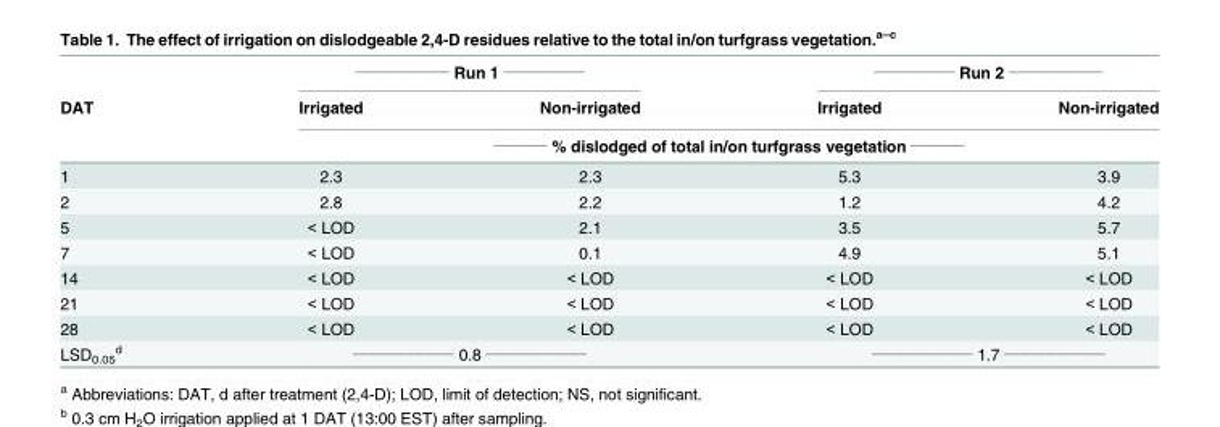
<table><thead><tr><td rowspan="3">DAT</td><td colspan="2"><sup>______________</sup> Run 1 <sup>____________</sup></td><td colspan="2"><sup>____________</sup> Run 2 <sup>______________</sup></td></tr><tr><td>Irrigated</td><td>Non-irrigated</td><td>Irrigated</td><td>Non-irrigated</td></tr><tr><td colspan="4"><sup>________</sup> % dislodged of total in/on turfgrass vegetation <sup>________</sup></td></tr></thead><tbody><tr><td>1</td><td>2.3</td><td>2.3</td><td>5.3</td><td>3.9</td></tr><tr><td>2</td><td>2.8</td><td>2.2</td><td>1.2</td><td>4.2</td></tr><tr><td>5</td><td>&lt; LOD</td><td>2.1</td><td>3.5</td><td>5.7</td></tr><tr><td>7</td><td>&lt; LOD</td><td>0.1</td><td>4.9</td><td>5.1</td></tr><tr><td>14</td><td>&lt; LOD</td><td>&lt; LOD</td><td>&lt; LOD</td><td>&lt; LOD</td></tr><tr><td>21</td><td>&lt; LOD</td><td>&lt; LOD</td><td>&lt; LOD</td><td>&lt; LOD</td></tr><tr><td>28</td><td>&lt; LOD</td><td>&lt; LOD</td><td>&lt; LOD</td><td>&lt; LOD</td></tr><tr><td>LSD<sub>0.05</sub> <sup>d</sup></td><td colspan="2"><sup>_______________</sup> 0.8 <sup>_______________</sup></td><td colspan="2"><sup>_______________</sup> 1.7 <sup>_______________</sup></td></tr></tbody></table>